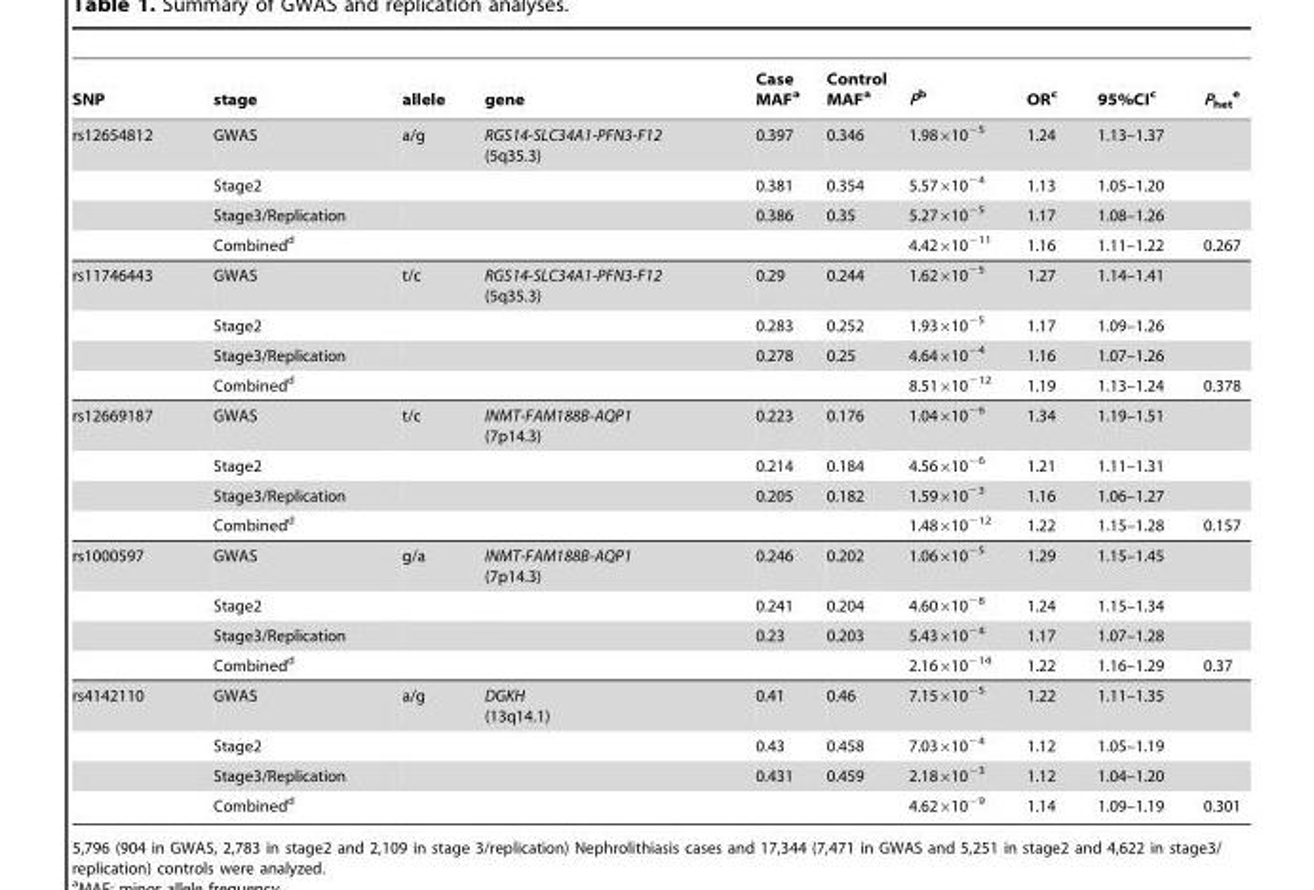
<table><thead><tr><td>SNP</td><td>stage</td><td>allele</td><td>gene</td><td>Case MAF<sup>a</sup></td><td>Control MAF<sup>a</sup></td><td>Pb</td><td>OR<sup>c</sup></td><td>95%CI<sup>c</sup></td><td>P<sub>het</sub> e</td></tr></thead><tbody><tr><td rowspan="4">rs12654812</td><td>GWAS</td><td>a/g</td><td>RGS14-SLC34A1-PFN3-F12 (5q35.3)</td><td>0.397</td><td>0.346</td><td>1.98×10<sup>−5</sup></td><td>1.24</td><td>1.13–1.37</td><td></td></tr><tr><td>Stage2</td><td></td><td></td><td>0.381</td><td>0.354</td><td>5.57×10<sup>−4</sup></td><td>1.13</td><td>1.05–1.20</td><td></td></tr><tr><td>Stage3/Replication</td><td></td><td></td><td>0.386</td><td>0.35</td><td>5.27×10<sup>−5</sup></td><td>1.17</td><td>1.08–1.26</td><td></td></tr><tr><td>Combined<sup>d</sup></td><td></td><td></td><td></td><td></td><td>4.42×10<sup>−11</sup></td><td>1.16</td><td>1.11–1.22</td><td>0.267</td></tr><tr><td rowspan="4">rs11746443</td><td>GWAS</td><td>t/c</td><td>RGS14-SLC34A1-PFN3-F12 (5q35.3)</td><td>0.29</td><td>0.244</td><td>1.62×10<sup>−5</sup></td><td>1.27</td><td>1.14–1.41</td><td></td></tr><tr><td>Stage2</td><td></td><td></td><td>0.283</td><td>0.252</td><td>1.93×10<sup>−5</sup></td><td>1.17</td><td>1.09–1.26</td><td></td></tr><tr><td>Stage3/Replication</td><td></td><td></td><td>0.278</td><td>0.25</td><td>4.64×10<sup>−4</sup></td><td>1.16</td><td>1.07–1.26</td><td></td></tr><tr><td>Combined<sup>d</sup></td><td></td><td></td><td></td><td></td><td>8.51×10<sup>−12</sup></td><td>1.19</td><td>1.13–1.24</td><td>0.378</td></tr><tr><td rowspan="4">rs12669187</td><td>GWAS</td><td>t/c</td><td>INMT-FAM188B-AQP1 (7p14.3)</td><td>0.223</td><td>0.176</td><td>1.04×10<sup>−6</sup></td><td>1.34</td><td>1.19–1.51</td><td></td></tr><tr><td>Stage2</td><td></td><td></td><td>0.214</td><td>0.184</td><td>4.56×10<sup>−6</sup></td><td>1.21</td><td>1.11–1.31</td><td></td></tr><tr><td>Stage3/Replication</td><td></td><td></td><td>0.205</td><td>0.182</td><td>1.59×10<sup>−3</sup></td><td>1.16</td><td>1.06–1.27</td><td></td></tr><tr><td>Combined<sup>d</sup></td><td></td><td></td><td></td><td></td><td>1.48×10<sup>−12</sup></td><td>1.22</td><td>1.15–1.28</td><td>0.157</td></tr><tr><td rowspan="4">rs1000597</td><td>GWAS</td><td>g/a</td><td>INMT-FAM188B-AQP1 (7p14.3)</td><td>0.246</td><td>0.202</td><td>1.06×10<sup>−5</sup></td><td>1.29</td><td>1.15–1.45</td><td></td></tr><tr><td>Stage2</td><td></td><td></td><td>0.241</td><td>0.204</td><td>4.60×10<sup>−8</sup></td><td>1.24</td><td>1.15–1.34</td><td></td></tr><tr><td>Stage3/Replication</td><td></td><td></td><td>0.23</td><td>0.203</td><td>5.43×10<sup>−4</sup></td><td>1.17</td><td>1.07–1.28</td><td></td></tr><tr><td>Combined<sup>d</sup></td><td></td><td></td><td></td><td></td><td>2.16×10<sup>−14</sup></td><td>1.22</td><td>1.16–1.29</td><td>0.37</td></tr><tr><td rowspan="4">rs4142110</td><td>GWAS</td><td>a/g</td><td>DGKH (13q14.1)</td><td>0.41</td><td>0.46</td><td>7.15×10<sup>−5</sup></td><td>1.22</td><td>1.11–1.35</td><td></td></tr><tr><td>Stage2</td><td></td><td></td><td>0.43</td><td>0.458</td><td>7.03×10<sup>−4</sup></td><td>1.12</td><td>1.05–1.19</td><td></td></tr><tr><td>Stage3/Replication</td><td></td><td></td><td>0.431</td><td>0.459</td><td>2.18×10<sup>−3</sup></td><td>1.12</td><td>1.04–1.20</td><td></td></tr><tr><td>Combined<sup>d</sup></td><td></td><td></td><td></td><td></td><td>4.62×10<sup>−9</sup></td><td>1.14</td><td>1.09–1.19</td><td>0.301</td></tr></tbody></table>